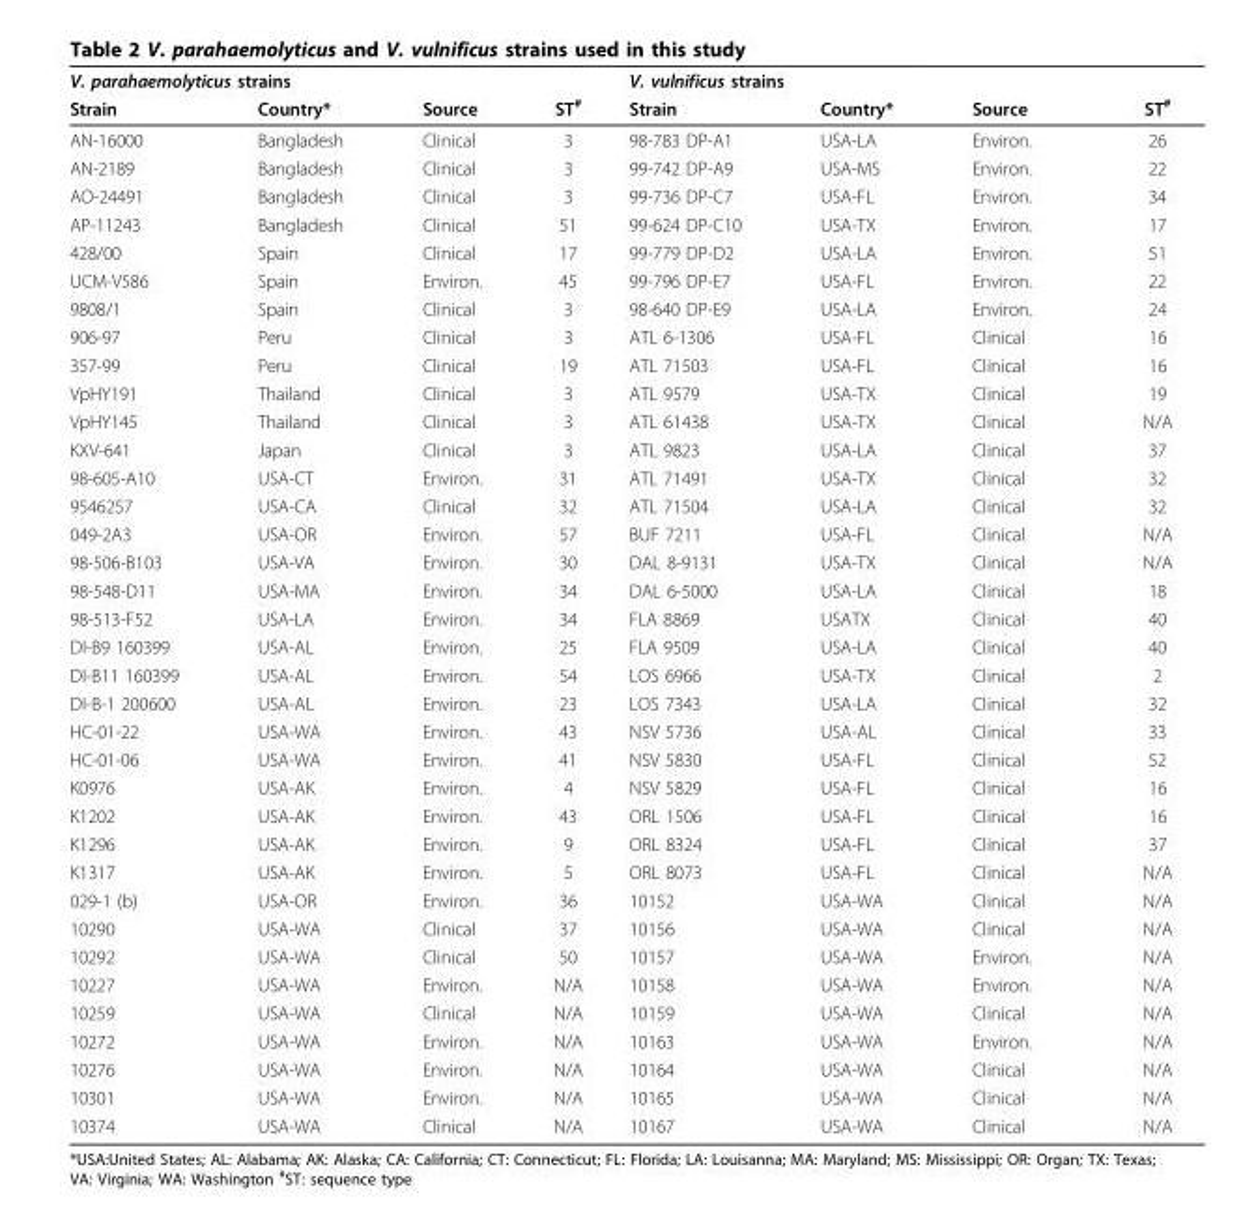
<table><thead><tr><td colspan="4">V. parahaemolyticus strains</td><td colspan="4">V. vulnificus strains</td></tr><tr><td>Strain</td><td>Country*</td><td>Source</td><td>ST<sup>#</sup></td><td>Strain</td><td>Country*</td><td>Source</td><td>ST<sup>#</sup></td></tr></thead><tbody><tr><td>AN-16000</td><td>Bangladesh</td><td>Clinical</td><td>3</td><td>98-783 DP-A1</td><td>USA-LA</td><td>Environ.</td><td>26</td></tr><tr><td>AN-2189</td><td>Bangladesh</td><td>Clinical</td><td>3</td><td>99-742 DP-A9</td><td>USA-MS</td><td>Environ.</td><td>22</td></tr><tr><td>AO-24491</td><td>Bangladesh</td><td>Clinical</td><td>3</td><td>99-736 DP-C7</td><td>USA-FL</td><td>Environ.</td><td>34</td></tr><tr><td>AP-11243</td><td>Bangladesh</td><td>Clinical</td><td>51</td><td>99-624 DP-C10</td><td>USA-TX</td><td>Environ.</td><td>17</td></tr><tr><td>428/00</td><td>Spain</td><td>Clinical</td><td>17</td><td>99-779 DP-D2</td><td>USA-LA</td><td>Environ.</td><td>51</td></tr><tr><td>UCM-V586</td><td>Spain</td><td>Environ.</td><td>45</td><td>99-796 DP-E7</td><td>USA-FL</td><td>Environ.</td><td>22</td></tr><tr><td>9808/1</td><td>Spain</td><td>Clinical</td><td>3</td><td>98-640 DP-E9</td><td>USA-LA</td><td>Environ.</td><td>24</td></tr><tr><td>906-97</td><td>Peru</td><td>Clinical</td><td>3</td><td>ATL 6-1306</td><td>USA-FL</td><td>Clinical</td><td>16</td></tr><tr><td>357-99</td><td>Peru</td><td>Clinical</td><td>19</td><td>ATL 71503</td><td>USA-FL</td><td>Clinical</td><td>16</td></tr><tr><td>VpHY191</td><td>Thailand</td><td>Clinical</td><td>3</td><td>ATL 9579</td><td>USA-TX</td><td>Clinical</td><td>19</td></tr><tr><td>VpHY145</td><td>Thailand</td><td>Clinical</td><td>3</td><td>ATL 61438</td><td>USA-TX</td><td>Clinical</td><td>N/A</td></tr><tr><td>KXV-641</td><td>Japan</td><td>Clinical</td><td>3</td><td>ATL 9823</td><td>USA-LA</td><td>Clinical</td><td>37</td></tr><tr><td>98-605-A10</td><td>USA-CT</td><td>Environ.</td><td>31</td><td>ATL 71491</td><td>USA-TX</td><td>Clinical</td><td>32</td></tr><tr><td>9546257</td><td>USA-CA</td><td>Clinical</td><td>32</td><td>ATL 71504</td><td>USA-LA</td><td>Clinical</td><td>32</td></tr><tr><td>049-2A3</td><td>USA-OR</td><td>Environ.</td><td>57</td><td>BUF 7211</td><td>USA-FL</td><td>Clinical</td><td>N/A</td></tr><tr><td>98-506-B103</td><td>USA-VA</td><td>Environ.</td><td>30</td><td>DAL 8-9131</td><td>USA-TX</td><td>Clinical</td><td>N/A</td></tr><tr><td>98-548-D11</td><td>USA-MA</td><td>Environ.</td><td>34</td><td>DAL 6-5000</td><td>USA-LA</td><td>Clinical</td><td>18</td></tr><tr><td>98-513-F52</td><td>USA-LA</td><td>Environ.</td><td>34</td><td>FLA 8869</td><td>USATX</td><td>Clinical</td><td>40</td></tr><tr><td>DI-B9 160399</td><td>USA-AL</td><td>Environ.</td><td>25</td><td>FLA 9509</td><td>USA-LA</td><td>Clinical</td><td>40</td></tr><tr><td>DI-B11 160399</td><td>USA-AL</td><td>Environ.</td><td>54</td><td>LOS 6966</td><td>USA-TX</td><td>Clinical</td><td>2</td></tr><tr><td>DI-B-1 200600</td><td>USA-AL</td><td>Environ.</td><td>23</td><td>LOS 7343</td><td>USA-LA</td><td>Clinical</td><td>32</td></tr><tr><td>HC-01-22</td><td>USA-WA</td><td>Environ.</td><td>43</td><td>NSV 5736</td><td>USA-AL</td><td>Clinical</td><td>33</td></tr><tr><td>HC-01-06</td><td>USA-WA</td><td>Environ.</td><td>41</td><td>NSV 5830</td><td>USA-FL</td><td>Clinical</td><td>52</td></tr><tr><td>K0976</td><td>USA-AK</td><td>Environ.</td><td>4</td><td>NSV 5829</td><td>USA-FL</td><td>Clinical</td><td>16</td></tr><tr><td>K1202</td><td>USA-AK</td><td>Environ.</td><td>43</td><td>ORL 1506</td><td>USA-FL</td><td>Clinical</td><td>16</td></tr><tr><td>K1296</td><td>USA-AK</td><td>Environ.</td><td>9</td><td>ORL 8324</td><td>USA-FL</td><td>Clinical</td><td>37</td></tr><tr><td>K1317</td><td>USA-AK</td><td>Environ.</td><td>5</td><td>ORL 8073</td><td>USA-FL</td><td>Clinical</td><td>N/A</td></tr><tr><td>029-1 (b)</td><td>USA-OR</td><td>Environ.</td><td>36</td><td>10152</td><td>USA-WA</td><td>Clinical</td><td>N/A</td></tr><tr><td>10290</td><td>USA-WA</td><td>Clinical</td><td>37</td><td>10156</td><td>USA-WA</td><td>Clinical</td><td>N/A</td></tr><tr><td>10292</td><td>USA-WA</td><td>Clinical</td><td>50</td><td>10157</td><td>USA-WA</td><td>Environ.</td><td>N/A</td></tr><tr><td>10227</td><td>USA-WA</td><td>Environ.</td><td>N/A</td><td>10158</td><td>USA-WA</td><td>Environ.</td><td>N/A</td></tr><tr><td>10259</td><td>USA-WA</td><td>Clinical</td><td>N/A</td><td>10159</td><td>USA-WA</td><td>Clinical</td><td>N/A</td></tr><tr><td>10272</td><td>USA-WA</td><td>Environ.</td><td>N/A</td><td>10163</td><td>USA-WA</td><td>Environ.</td><td>N/A</td></tr><tr><td>10276</td><td>USA-WA</td><td>Environ.</td><td>N/A</td><td>10164</td><td>USA-WA</td><td>Clinical</td><td>N/A</td></tr><tr><td>10301</td><td>USA-WA</td><td>Environ.</td><td>N/A</td><td>10165</td><td>USA-WA</td><td>Clinical</td><td>N/A</td></tr><tr><td>10374</td><td>USA-WA</td><td>Clinical</td><td>N/A</td><td>10167</td><td>USA-WA</td><td>Clinical</td><td>N/A</td></tr></tbody></table>